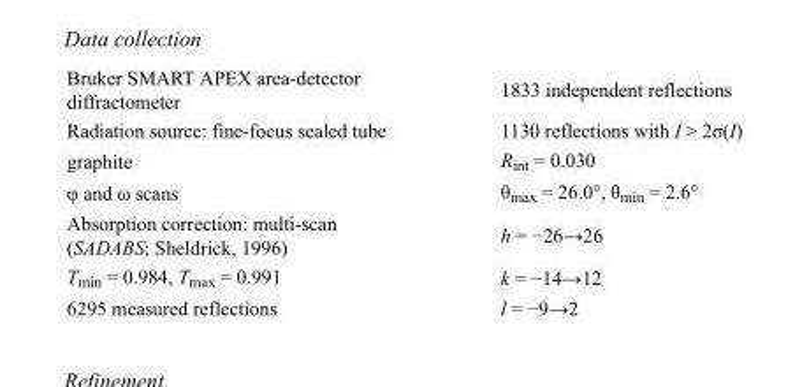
<table><tbody><tr><td>Bruker SMART APEX area-detector diffractometer</td><td>1833 independent reflections</td></tr><tr><td>Radiation source: fine-focus sealed tube</td><td>1130 reflections with I &gt; 2σ(I)</td></tr><tr><td>graphite</td><td>R<sub>int</sub> = 0.030</td></tr><tr><td>φ and ω scans</td><td>θ<sub>max</sub> = 26.0°, θ<sub>min</sub> = 2.6°</td></tr><tr><td>Absorption correction: multi-scan (SADABS; Sheldrick, 1996)</td><td>h = −26→26</td></tr><tr><td>T<sub>min</sub> = 0.984, T<sub>max</sub> = 0.991</td><td>k = −14→12</td></tr><tr><td>6295 measured reflections</td><td>l = −9→2</td></tr></tbody></table>